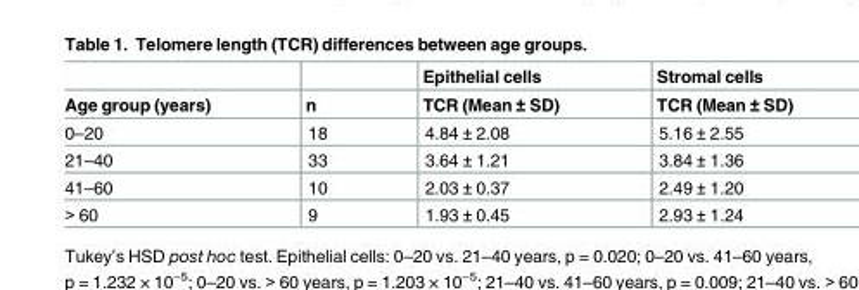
<table><thead><tr><td rowspan="2">Age group (years)</td><td rowspan="2">n</td><td rowspan="2">Epithelial cells TCR (Mean ± SD)</td><td rowspan="2">Stromal cells TCR (Mean ± SD)</td></tr><tr></tr></thead><tbody><tr><td>0–20</td><td>18</td><td>4.84 ± 2.08</td><td>5.16 ± 2.55</td></tr><tr><td>21–40</td><td>33</td><td>3.64 ± 1.21</td><td>3.84 ± 1.36</td></tr><tr><td>41–60</td><td>10</td><td>2.03 ± 0.37</td><td>2.49 ± 1.20</td></tr><tr><td>&gt; 60</td><td>9</td><td>1.93 ± 0.45</td><td>2.93 ± 1.24</td></tr></tbody></table>